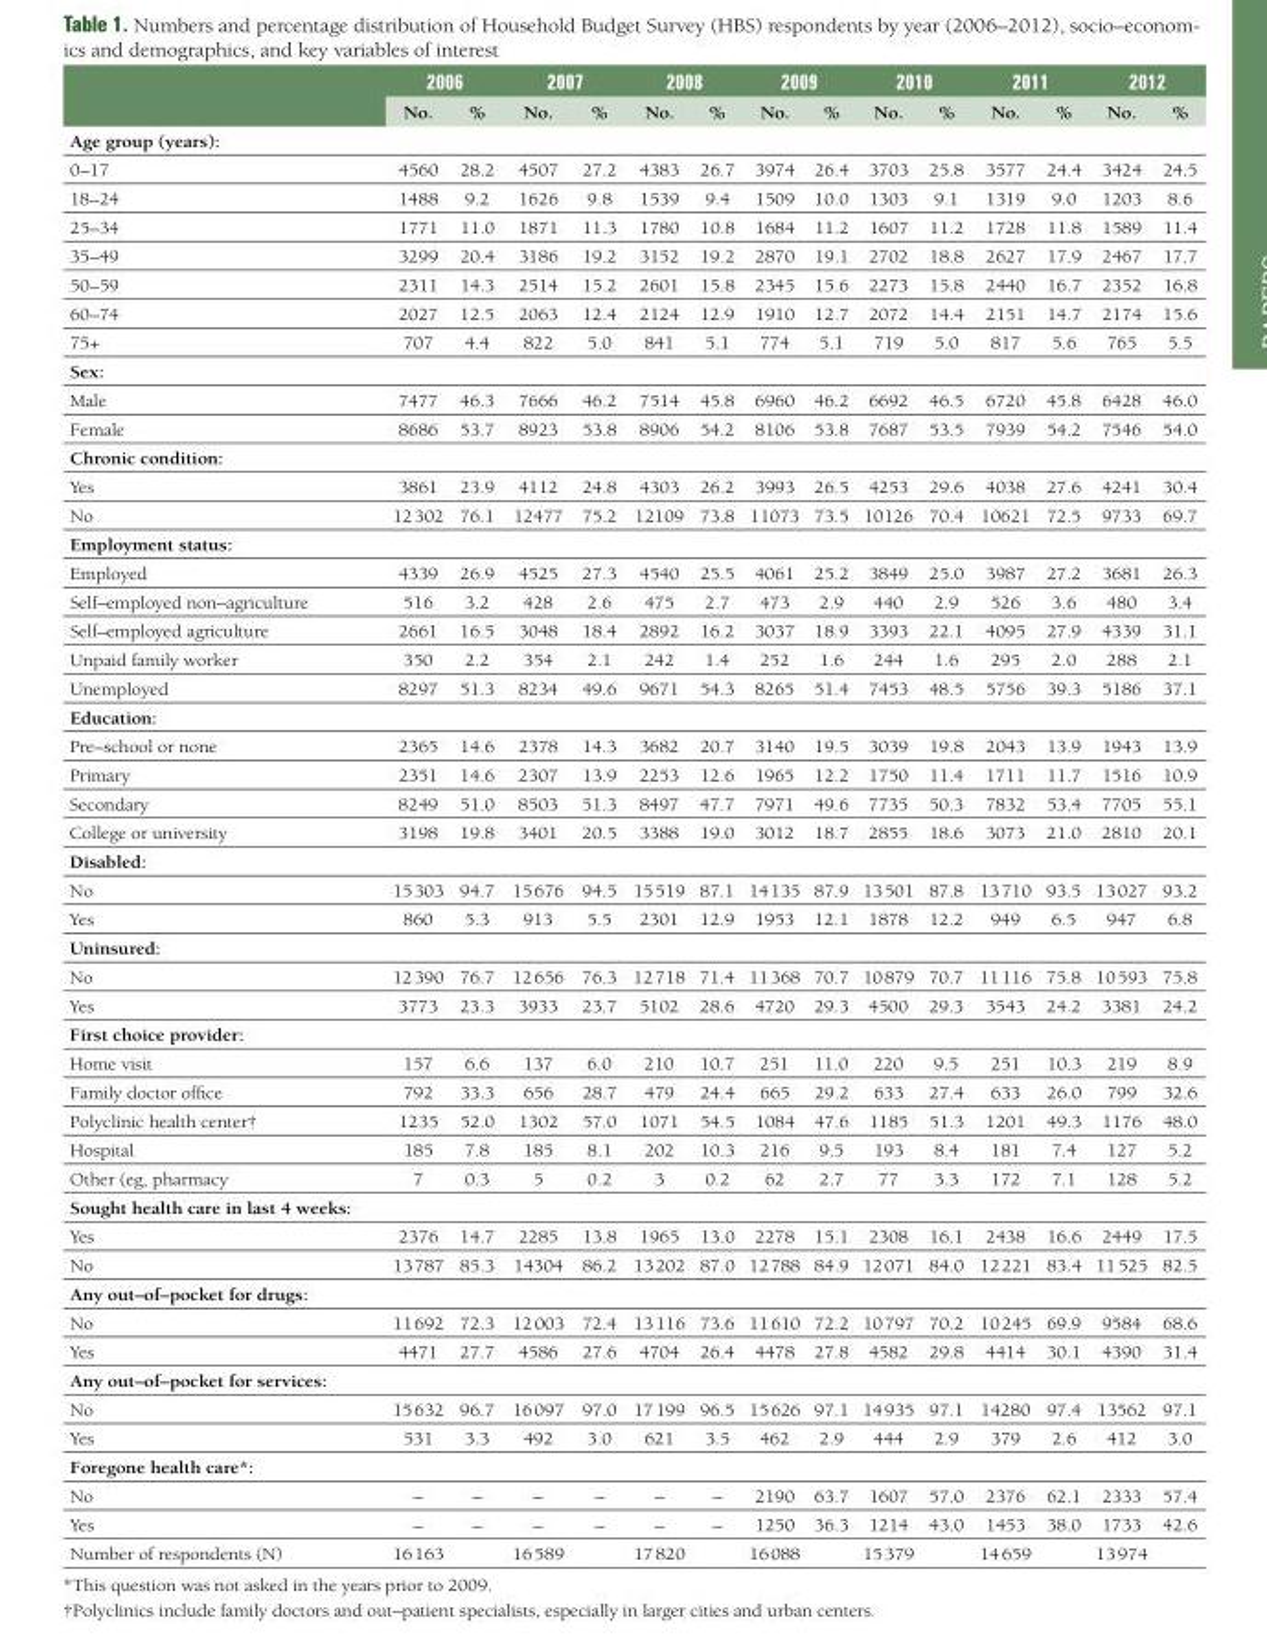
<table><thead><tr><td rowspan="2"></td><td colspan="2">2006</td><td colspan="2">2007</td><td colspan="2">2008</td><td colspan="2">2009</td><td colspan="2">2010</td><td colspan="2">2011</td><td colspan="2">2012</td></tr><tr><td>No.</td><td>%</td><td>No.</td><td>%</td><td>No.</td><td>%</td><td>No.</td><td>%</td><td>No.</td><td>%</td><td>No.</td><td>%</td><td>No.</td><td>%</td></tr></thead><tbody><tr><td colspan="15">Age group (years):</td></tr><tr><td>0–17</td><td>4560</td><td>28.2</td><td>4507</td><td>27.2</td><td>4383</td><td>26.7</td><td>3974</td><td>26.4</td><td>3703</td><td>25.8</td><td>3577</td><td>24.4</td><td>3424</td><td>24.5</td></tr><tr><td>18–24</td><td>1488</td><td>9.2</td><td>1626</td><td>9.8</td><td>1539</td><td>9.4</td><td>1509</td><td>10.0</td><td>1303</td><td>9.1</td><td>1319</td><td>9.0</td><td>1203</td><td>8.6</td></tr><tr><td>25–34</td><td>1771</td><td>11.0</td><td>1871</td><td>11.3</td><td>1780</td><td>10.8</td><td>1684</td><td>11.2</td><td>1607</td><td>11.2</td><td>1728</td><td>11.8</td><td>1589</td><td>11.4</td></tr><tr><td>35–49</td><td>3299</td><td>20.4</td><td>3186</td><td>19.2</td><td>3152</td><td>19.2</td><td>2870</td><td>19.1</td><td>2702</td><td>18.8</td><td>2627</td><td>17.9</td><td>2467</td><td>17.7</td></tr><tr><td>50–59</td><td>2311</td><td>14.3</td><td>2514</td><td>15.2</td><td>2601</td><td>15.8</td><td>2345</td><td>15.6</td><td>2273</td><td>15.8</td><td>2440</td><td>16.7</td><td>2352</td><td>16.8</td></tr><tr><td>60–74</td><td>2027</td><td>12.5</td><td>2063</td><td>12.4</td><td>2124</td><td>12.9</td><td>1910</td><td>12.7</td><td>2072</td><td>14.4</td><td>2151</td><td>14.7</td><td>2174</td><td>15.6</td></tr><tr><td>75+</td><td>707</td><td>4.4</td><td>822</td><td>5.0</td><td>841</td><td>5.1</td><td>774</td><td>5.1</td><td>719</td><td>5.0</td><td>817</td><td>5.6</td><td>765</td><td>5.5</td></tr><tr><td colspan="15">Sex:</td></tr><tr><td>Male</td><td>7477</td><td>46.3</td><td>7666</td><td>46.2</td><td>7514</td><td>45.8</td><td>6960</td><td>46.2</td><td>6692</td><td>46.5</td><td>6720</td><td>45.8</td><td>6428</td><td>46.0</td></tr><tr><td>Female</td><td>8686</td><td>53.7</td><td>8923</td><td>53.8</td><td>8906</td><td>54.2</td><td>8106</td><td>53.8</td><td>7687</td><td>53.5</td><td>7939</td><td>54.2</td><td>7546</td><td>54.0</td></tr><tr><td colspan="15">Chronic condition:</td></tr><tr><td>Yes</td><td>3861</td><td>23.9</td><td>4112</td><td>24.8</td><td>4303</td><td>26.2</td><td>3993</td><td>26.5</td><td>4253</td><td>29.6</td><td>4038</td><td>27.6</td><td>4241</td><td>30.4</td></tr><tr><td>No</td><td>12 302</td><td>76.1</td><td>12477</td><td>75.2</td><td>12109</td><td>73.8</td><td>11073</td><td>73.5</td><td>10126</td><td>70.4</td><td>10621</td><td>72.5</td><td>9733</td><td>69.7</td></tr><tr><td colspan="15">Employment status:</td></tr><tr><td>Employed</td><td>4339</td><td>26.9</td><td>4525</td><td>27.3</td><td>4540</td><td>25.5</td><td>4061</td><td>25.2</td><td>3849</td><td>25.0</td><td>3987</td><td>27.2</td><td>3681</td><td>26.3</td></tr><tr><td>Self–employed non–agriculture</td><td>516</td><td>3.2</td><td>428</td><td>2.6</td><td>475</td><td>2.7</td><td>473</td><td>2.9</td><td>440</td><td>2.9</td><td>526</td><td>3.6</td><td>480</td><td>3.4</td></tr><tr><td>Self–employed agriculture</td><td>2661</td><td>16.5</td><td>3048</td><td>18.4</td><td>2892</td><td>16.2</td><td>3037</td><td>18.9</td><td>3393</td><td>22.1</td><td>4095</td><td>27.9</td><td>4339</td><td>31.1</td></tr><tr><td>Unpaid family worker</td><td>350</td><td>2.2</td><td>354</td><td>2.1</td><td>242</td><td>1.4</td><td>252</td><td>1.6</td><td>244</td><td>1.6</td><td>295</td><td>2.0</td><td>288</td><td>2.1</td></tr><tr><td>Unemployed</td><td>8297</td><td>51.3</td><td>8234</td><td>49.6</td><td>9671</td><td>54.3</td><td>8265</td><td>51.4</td><td>7453</td><td>48.5</td><td>5756</td><td>39.3</td><td>5186</td><td>37.1</td></tr><tr><td colspan="15">Education:</td></tr><tr><td>Pre–school or none</td><td>2365</td><td>14.6</td><td>2378</td><td>14.3</td><td>3682</td><td>20.7</td><td>3140</td><td>19.5</td><td>3039</td><td>19.8</td><td>2043</td><td>13.9</td><td>1943</td><td>13.9</td></tr><tr><td>Primary</td><td>2351</td><td>14.6</td><td>2307</td><td>13.9</td><td>2253</td><td>12.6</td><td>1965</td><td>12.2</td><td>1750</td><td>11.4</td><td>1711</td><td>11.7</td><td>1516</td><td>10.9</td></tr><tr><td>Secondary</td><td>8249</td><td>51.0</td><td>8503</td><td>51.3</td><td>8497</td><td>47.7</td><td>7971</td><td>49.6</td><td>7735</td><td>50.3</td><td>7832</td><td>53.4</td><td>7705</td><td>55.1</td></tr><tr><td>College or university</td><td>3198</td><td>19.8</td><td>3401</td><td>20.5</td><td>3388</td><td>19.0</td><td>3012</td><td>18.7</td><td>2855</td><td>18.6</td><td>3073</td><td>21.0</td><td>2810</td><td>20.1</td></tr><tr><td colspan="15">Disabled:</td></tr><tr><td>No</td><td>15 303</td><td>94.7</td><td>15 676</td><td>94.5</td><td>15 519</td><td>87.1</td><td>14 135</td><td>87.9</td><td>13 501</td><td>87.8</td><td>13 710</td><td>93.5</td><td>13 027</td><td>93.2</td></tr><tr><td>Yes</td><td>860</td><td>5.3</td><td>913</td><td>5.5</td><td>2301</td><td>12.9</td><td>1953</td><td>12.1</td><td>1878</td><td>12.2</td><td>949</td><td>6.5</td><td>947</td><td>6.8</td></tr><tr><td colspan="15">Uninsured:</td></tr><tr><td>No</td><td>12 390</td><td>76.7</td><td>12 656</td><td>76.3</td><td>12 718</td><td>71.4</td><td>11 368</td><td>70.7</td><td>10 879</td><td>70.7</td><td>11 116</td><td>75.8</td><td>10 593</td><td>75.8</td></tr><tr><td>Yes</td><td>3773</td><td>23.3</td><td>3933</td><td>23.7</td><td>5102</td><td>28.6</td><td>4720</td><td>29.3</td><td>4500</td><td>29.3</td><td>3543</td><td>24.2</td><td>3381</td><td>24.2</td></tr><tr><td colspan="15">First choice provider:</td></tr><tr><td>Home visit</td><td>157</td><td>6.6</td><td>137</td><td>6.0</td><td>210</td><td>10.7</td><td>251</td><td>11.0</td><td>220</td><td>9.5</td><td>251</td><td>10.3</td><td>219</td><td>8.9</td></tr><tr><td>Family doctor office</td><td>792</td><td>33.3</td><td>656</td><td>28.7</td><td>479</td><td>24.4</td><td>665</td><td>29.2</td><td>633</td><td>27.4</td><td>633</td><td>26.0</td><td>799</td><td>32.6</td></tr><tr><td>Polyclinic health center†</td><td>1235</td><td>52.0</td><td>1302</td><td>57.0</td><td>1071</td><td>54.5</td><td>1084</td><td>47.6</td><td>1185</td><td>51.3</td><td>1201</td><td>49.3</td><td>1176</td><td>48.0</td></tr><tr><td>Hospital</td><td>185</td><td>7.8</td><td>185</td><td>8.1</td><td>202</td><td>10.3</td><td>216</td><td>9.5</td><td>193</td><td>8.4</td><td>181</td><td>7.4</td><td>127</td><td>5.2</td></tr><tr><td>Other (eg, pharmacy</td><td>7</td><td>0.3</td><td>5</td><td>0.2</td><td>3</td><td>0.2</td><td>62</td><td>2.7</td><td>77</td><td>3.3</td><td>172</td><td>7.1</td><td>128</td><td>5.2</td></tr><tr><td colspan="15">Sought health care in last 4 weeks:</td></tr><tr><td>Yes</td><td>2376</td><td>14.7</td><td>2285</td><td>13.8</td><td>1965</td><td>13.0</td><td>2278</td><td>15.1</td><td>2308</td><td>16.1</td><td>2438</td><td>16.6</td><td>2449</td><td>17.5</td></tr><tr><td>No</td><td>13 787</td><td>85.3</td><td>14304</td><td>86.2</td><td>13 202</td><td>87.0</td><td>12 788</td><td>84.9</td><td>12 071</td><td>84.0</td><td>12 221</td><td>83.4</td><td>11 525</td><td>82.5</td></tr><tr><td colspan="15">Any out–of–pocket for drugs:</td></tr><tr><td>No</td><td>11 692</td><td>72.3</td><td>12 003</td><td>72.4</td><td>13 116</td><td>73.6</td><td>11 610</td><td>72.2</td><td>10 797</td><td>70.2</td><td>10 245</td><td>69.9</td><td>9584</td><td>68.6</td></tr><tr><td>Yes</td><td>4471</td><td>27.7</td><td>4586</td><td>27.6</td><td>4704</td><td>26.4</td><td>4478</td><td>27.8</td><td>4582</td><td>29.8</td><td>4414</td><td>30.1</td><td>4390</td><td>31.4</td></tr><tr><td colspan="15">Any out–of–pocket for services:</td></tr><tr><td>No</td><td>15 632</td><td>96.7</td><td>16 097</td><td>97.0</td><td>17 199</td><td>96.5</td><td>15 626</td><td>97.1</td><td>14 935</td><td>97.1</td><td>14280</td><td>97.4</td><td>13562</td><td>97.1</td></tr><tr><td>Yes</td><td>531</td><td>3.3</td><td>492</td><td>3.0</td><td>621</td><td>3.5</td><td>462</td><td>2.9</td><td>444</td><td>2.9</td><td>379</td><td>2.6</td><td>412</td><td>3.0</td></tr><tr><td colspan="15">Foregone health care*:</td></tr><tr><td>No</td><td>–</td><td>–</td><td>–</td><td>–</td><td>–</td><td>–</td><td>2190</td><td>63.7</td><td>1607</td><td>57.0</td><td>2376</td><td>62.1</td><td>2333</td><td>57.4</td></tr><tr><td>Yes</td><td>–</td><td>–</td><td>–</td><td>–</td><td>–</td><td>–</td><td>1250</td><td>36.3</td><td>1214</td><td>43.0</td><td>1453</td><td>38.0</td><td>1733</td><td>42.6</td></tr><tr><td>Number of respondents (N)</td><td>16 163</td><td></td><td>16 589</td><td></td><td>17 820</td><td></td><td>16 088</td><td></td><td>15 379</td><td></td><td>14 659</td><td></td><td>13 974</td><td></td></tr></tbody></table>